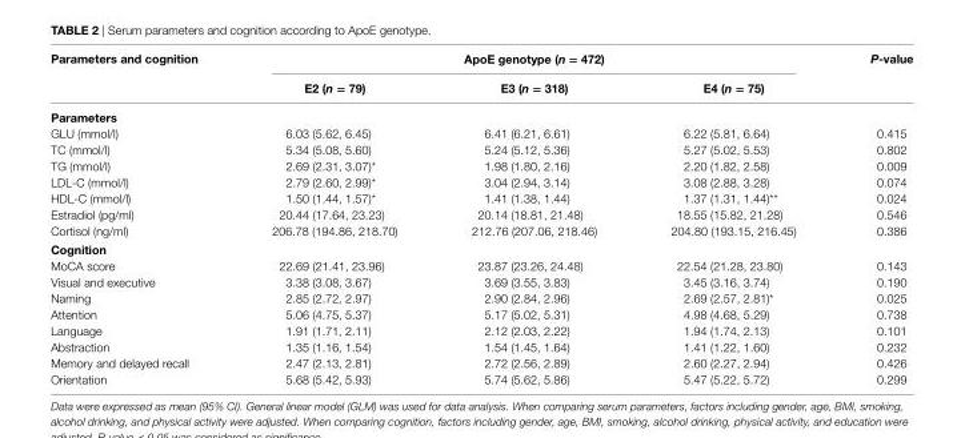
<table><thead><tr><td rowspan="2">Parameters and cognition</td><td colspan="3">apoe genotype (n = 472)</td><td rowspan="2">P-value</td></tr><tr><td>e2 (n = 79)</td><td>e3 (n = 318)</td><td>e4 (n = 75)</td></tr></thead><tbody><tr><td colspan="5">Parameters</td></tr><tr><td>GLU (mmol/l)</td><td>6.03 (5.62, 6.45)</td><td>6.41 (6.21, 6.61)</td><td>6.22 (5.81, 6.64)</td><td>0.415</td></tr><tr><td>TC (mmol/l)</td><td>5.34 (5.08, 5.60)</td><td>5.24 (5.12, 5.36)</td><td>5.27 (5.02, 5.53)</td><td>0.802</td></tr><tr><td>TG (mmol/l)</td><td>2.69 (2.31, 3.07)*</td><td>1.98 (1.80, 2.16)</td><td>2.20 (1.82, 2.58)</td><td>0.009</td></tr><tr><td>LDL-C (mmol/l)</td><td>2.79 (2.60, 2.99)*</td><td>3.04 (2.94, 3.14)</td><td>3.08 (2.88, 3.28)</td><td>0.074</td></tr><tr><td>HDL-C (mmol/l)</td><td>1.50 (1.44, 1.57)*</td><td>1.41 (1.38, 1.44)</td><td>1.37 (1.31, 1.44)**</td><td>0.024</td></tr><tr><td>Estradiol (pg/ml)</td><td>20.44 (17.64, 23.23)</td><td>20.14 (18.81, 21.48)</td><td>18.55 (15.82, 21.28)</td><td>0.546</td></tr><tr><td>Cortisol (ng/ml)</td><td>206.78 (194.86, 218.70)</td><td>212.76 (207.06, 218.46)</td><td>204.80 (193.15, 216.45)</td><td>0.386</td></tr><tr><td colspan="5">cognition</td></tr><tr><td>MoCA score</td><td>22.69 (21.41, 23.96)</td><td>23.87 (23.26, 24.48)</td><td>22.54 (21.28, 23.80)</td><td>0.143</td></tr><tr><td>Visual and executive</td><td>3.38 (3.08, 3.67)</td><td>3.69 (3.55, 3.83)</td><td>3.45 (3.16, 3.74)</td><td>0.190</td></tr><tr><td>Naming</td><td>2.85 (2.72, 2.97)</td><td>2.90 (2.84, 2.96)</td><td>2.69 (2.57, 2.81)*</td><td>0.025</td></tr><tr><td>Attention</td><td>5.06 (4.75, 5.37)</td><td>5.17 (5.02, 5.31)</td><td>4.98 (4.68, 5.29)</td><td>0.738</td></tr><tr><td>Language</td><td>1.91 (1.71, 2.11)</td><td>2.12 (2.03, 2.22)</td><td>1.94 (1.74, 2.13)</td><td>0.101</td></tr><tr><td>Abstraction</td><td>1.35 (1.16, 1.54)</td><td>1.54 (1.45, 1.64)</td><td>1.41 (1.22, 1.60)</td><td>0.232</td></tr><tr><td>Memory and delayed recall</td><td>2.47 (2.13, 2.81)</td><td>2.72 (2.56, 2.89)</td><td>2.60 (2.27, 2.94)</td><td>0.426</td></tr><tr><td>Orientation</td><td>5.68 (5.42, 5.93)</td><td>5.74 (5.62, 5.86)</td><td>5.47 (5.22, 5.72)</td><td>0.299</td></tr></tbody></table>